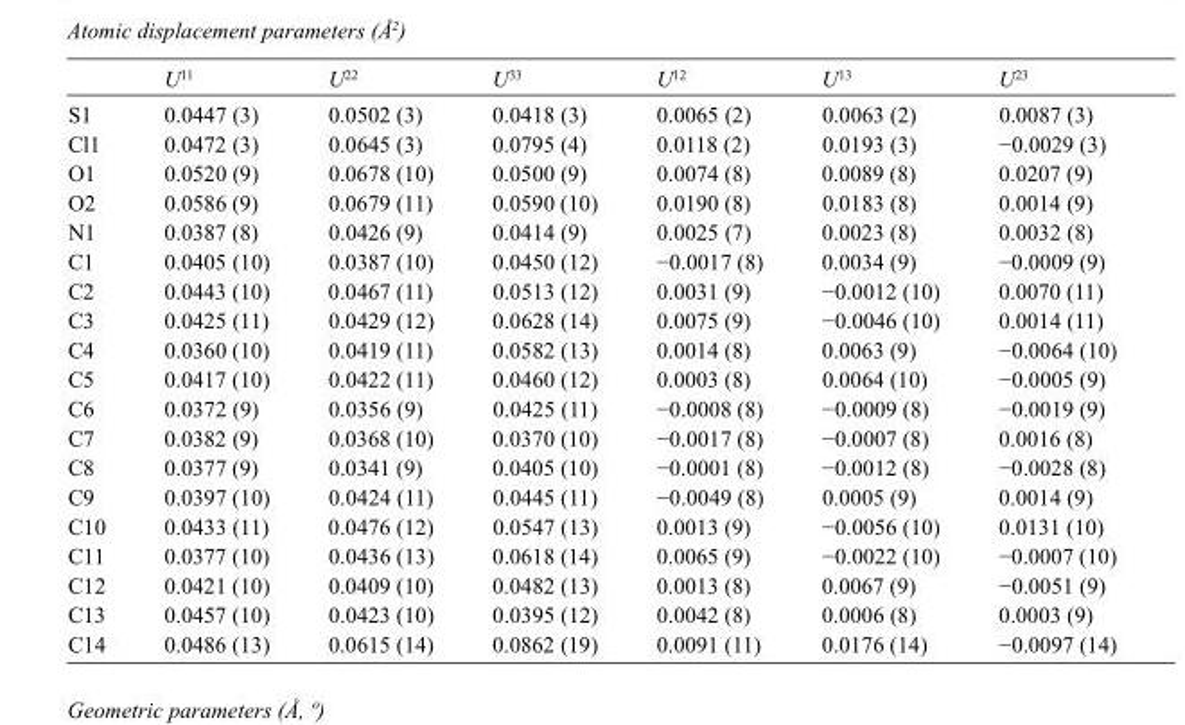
<table><thead><tr><td></td><td>U<sup>11</sup></td><td>U<sup>22</sup></td><td>U<sup>33</sup></td><td>U<sup>12</sup></td><td>U<sup>13</sup></td><td>U<sup>23</sup></td></tr></thead><tbody><tr><td>S1</td><td>0.0447 (3)</td><td>0.0502 (3)</td><td>0.0418 (3)</td><td>0.0065 (2)</td><td>0.0063 (2)</td><td>0.0087 (3)</td></tr><tr><td>Cl1</td><td>0.0472 (3)</td><td>0.0645 (3)</td><td>0.0795 (4)</td><td>0.0118 (2)</td><td>0.0193 (3)</td><td>−0.0029 (3)</td></tr><tr><td>O1</td><td>0.0520 (9)</td><td>0.0678 (10)</td><td>0.0500 (9)</td><td>0.0074 (8)</td><td>0.0089 (8)</td><td>0.0207 (9)</td></tr><tr><td>O2</td><td>0.0586 (9)</td><td>0.0679 (11)</td><td>0.0590 (10)</td><td>0.0190 (8)</td><td>0.0183 (8)</td><td>0.0014 (9)</td></tr><tr><td>N1</td><td>0.0387 (8)</td><td>0.0426 (9)</td><td>0.0414 (9)</td><td>0.0025 (7)</td><td>0.0023 (8)</td><td>0.0032 (8)</td></tr><tr><td>C1</td><td>0.0405 (10)</td><td>0.0387 (10)</td><td>0.0450 (12)</td><td>−0.0017 (8)</td><td>0.0034 (9)</td><td>−0.0009 (9)</td></tr><tr><td>C2</td><td>0.0443 (10)</td><td>0.0467 (11)</td><td>0.0513 (12)</td><td>0.0031 (9)</td><td>−0.0012 (10)</td><td>0.0070 (11)</td></tr><tr><td>C3</td><td>0.0425 (11)</td><td>0.0429 (12)</td><td>0.0628 (14)</td><td>0.0075 (9)</td><td>−0.0046 (10)</td><td>0.0014 (11)</td></tr><tr><td>C4</td><td>0.0360 (10)</td><td>0.0419 (11)</td><td>0.0582 (13)</td><td>0.0014 (8)</td><td>0.0063 (9)</td><td>−0.0064 (10)</td></tr><tr><td>C5</td><td>0.0417 (10)</td><td>0.0422 (11)</td><td>0.0460 (12)</td><td>0.0003 (8)</td><td>0.0064 (10)</td><td>−0.0005 (9)</td></tr><tr><td>C6</td><td>0.0372 (9)</td><td>0.0356 (9)</td><td>0.0425 (11)</td><td>−0.0008 (8)</td><td>−0.0009 (8)</td><td>−0.0019 (9)</td></tr><tr><td>C7</td><td>0.0382 (9)</td><td>0.0368 (10)</td><td>0.0370 (10)</td><td>−0.0017 (8)</td><td>−0.0007 (8)</td><td>0.0016 (8)</td></tr><tr><td>C8</td><td>0.0377 (9)</td><td>0.0341 (9)</td><td>0.0405 (10)</td><td>−0.0001 (8)</td><td>−0.0012 (8)</td><td>−0.0028 (8)</td></tr><tr><td>C9</td><td>0.0397 (10)</td><td>0.0424 (11)</td><td>0.0445 (11)</td><td>−0.0049 (8)</td><td>0.0005 (9)</td><td>0.0014 (9)</td></tr><tr><td>C10</td><td>0.0433 (11)</td><td>0.0476 (12)</td><td>0.0547 (13)</td><td>0.0013 (9)</td><td>−0.0056 (10)</td><td>0.0131 (10)</td></tr><tr><td>C11</td><td>0.0377 (10)</td><td>0.0436 (13)</td><td>0.0618 (14)</td><td>0.0065 (9)</td><td>−0.0022 (10)</td><td>−0.0007 (10)</td></tr><tr><td>C12</td><td>0.0421 (10)</td><td>0.0409 (10)</td><td>0.0482 (13)</td><td>0.0013 (8)</td><td>0.0067 (9)</td><td>−0.0051 (9)</td></tr><tr><td>C13</td><td>0.0457 (10)</td><td>0.0423 (10)</td><td>0.0395 (12)</td><td>0.0042 (8)</td><td>0.0006 (8)</td><td>0.0003 (9)</td></tr><tr><td>C14</td><td>0.0486 (13)</td><td>0.0615 (14)</td><td>0.0862 (19)</td><td>0.0091 (11)</td><td>0.0176 (14)</td><td>−0.0097 (14)</td></tr></tbody></table>